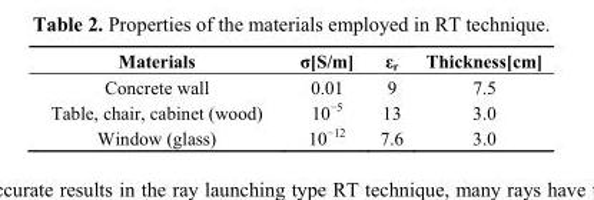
<table><thead><tr><td>Materials</td><td>σ[S/m]</td><td>ε<sub>r</sub></td><td>Thickness[cm]</td></tr></thead><tbody><tr><td>Concrete wall</td><td>0.01</td><td>9</td><td>7.5</td></tr><tr><td>Table, chair, cabinet (wood)</td><td>10<sup>−5</sup></td><td>13</td><td>3.0</td></tr><tr><td>Window (glass)</td><td>10<sup>−12</sup></td><td>7.6</td><td>3.0</td></tr></tbody></table>